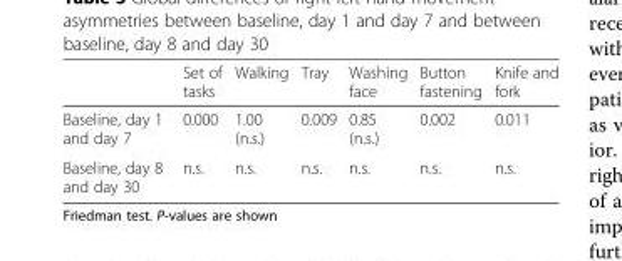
<table><thead><tr><td></td><td>Set of tasks</td><td>Walking</td><td>Tray</td><td>Washing face</td><td>Button fastening</td><td>Knife and fork</td></tr></thead><tbody><tr><td>Baseline, day 1 and day 7</td><td>0.000</td><td>1.00 (n.s.)</td><td>0.009</td><td>0.85 (n.s.)</td><td>0.002</td><td>0.011</td></tr><tr><td>Baseline, day 8 and day 30</td><td>n.s.</td><td>n.s.</td><td>n.s.</td><td>n.s.</td><td>n.s.</td><td>n.s.</td></tr></tbody></table>